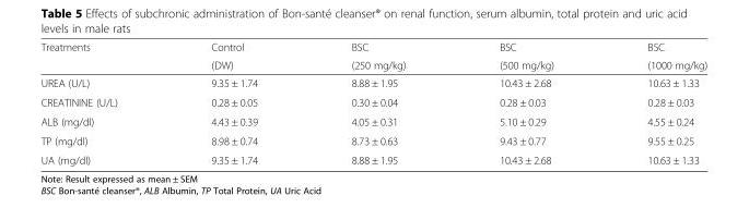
<table><thead><tr><td rowspan="2">Treatments</td><td rowspan="2">Control (DW)</td><td rowspan="2">BSC (250 mg/kg)</td><td rowspan="2">BSC (500 mg/kg)</td><td rowspan="2">BSC (1000 mg/kg)</td></tr><tr></tr></thead><tbody><tr><td>UREA (U/L)</td><td>9.35 ± 1.74</td><td>8.88 ± 1.95</td><td>10.43 ± 2.68</td><td>10.63 ± 1.33</td></tr><tr><td>CREATININE (U/L)</td><td>0.28 ± 0.05</td><td>0.30 ± 0.04</td><td>0.28 ± 0.03</td><td>0.28 ± 0.03</td></tr><tr><td>ALB (mg/dl)</td><td>4.43 ± 0.39</td><td>4.05 ± 0.31</td><td>5.10 ± 0.29</td><td>4.55 ± 0.24</td></tr><tr><td>TP (mg/dl)</td><td>8.98 ± 0.74</td><td>8.73 ± 0.63</td><td>9.43 ± 0.77</td><td>9.55 ± 0.25</td></tr><tr><td>UA (mg/dl)</td><td>9.35 ± 1.74</td><td>8.88 ± 1.95</td><td>10.43 ± 2.68</td><td>10.63 ± 1.33</td></tr></tbody></table>